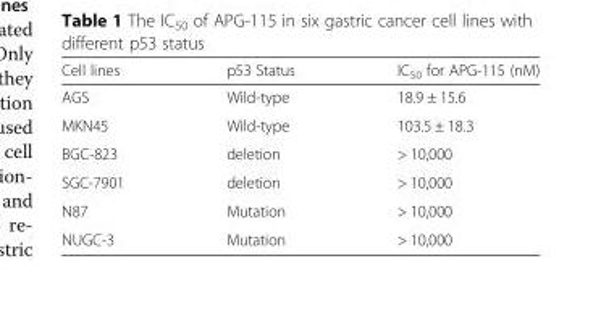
<table><thead><tr><td>Cell lines</td><td>p53 Status</td><td>IC<sub>50</sub> for APG-115 (nM)</td></tr></thead><tbody><tr><td>AGS</td><td>Wild-type</td><td>18.9 ± 15.6</td></tr><tr><td>MKN45</td><td>Wild-type</td><td>103.5 ± 18.3</td></tr><tr><td>BGC-823</td><td>deletion</td><td>&gt; 10,000</td></tr><tr><td>SGC-7901</td><td>deletion</td><td>&gt; 10,000</td></tr><tr><td>N87</td><td>Mutation</td><td>&gt; 10,000</td></tr><tr><td>NUGC-3</td><td>Mutation</td><td>&gt; 10,000</td></tr></tbody></table>